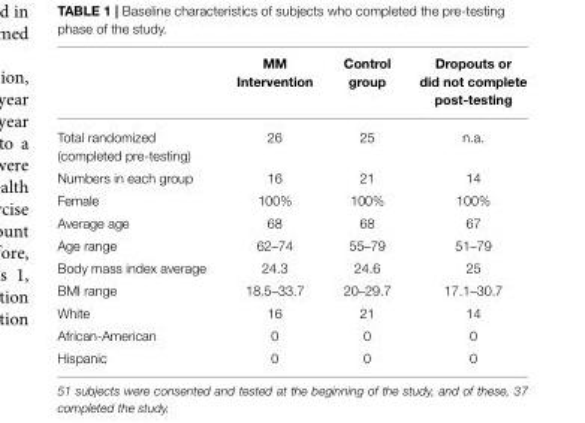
<table><thead><tr><td></td><td>MM Intervention</td><td>Control group</td><td>Dropouts or did not complete post-testing</td></tr></thead><tbody><tr><td>Total randomized (completed pre-testing)</td><td>26</td><td>25</td><td>n.a.</td></tr><tr><td>Numbers in each group</td><td>16</td><td>21</td><td>14</td></tr><tr><td>Female</td><td>100%</td><td>100%</td><td>100%</td></tr><tr><td>Average age</td><td>68</td><td>68</td><td>67</td></tr><tr><td>Age range</td><td>62–74</td><td>55–79</td><td>51–79</td></tr><tr><td>Body mass index average</td><td>24.3</td><td>24.6</td><td>25</td></tr><tr><td>BMI range</td><td>18.5–33.7</td><td>20–29.7</td><td>17.1–30.7</td></tr><tr><td>White</td><td>16</td><td>21</td><td>14</td></tr><tr><td>African-American</td><td>0</td><td>0</td><td>0</td></tr><tr><td>Hispanic</td><td>0</td><td>0</td><td>0</td></tr></tbody></table>